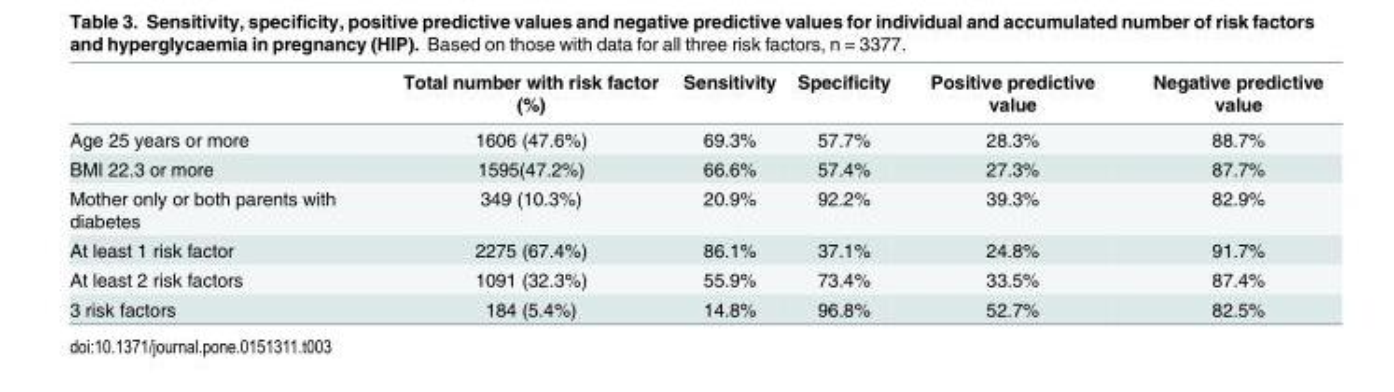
<table><thead><tr><td></td><td>Total number with risk factor (%)</td><td>Sensitivity</td><td>Specificity</td><td>Positive predictive value</td><td>Negative predictive value</td></tr></thead><tbody><tr><td>Age 25 years or more</td><td>1606 (47.6%)</td><td>69.3%</td><td>57.7%</td><td>28.3%</td><td>88.7%</td></tr><tr><td>BMI 22.3 or more</td><td>1595(47.2%)</td><td>66.6%</td><td>57.4%</td><td>27.3%</td><td>87.7%</td></tr><tr><td>Mother only or both parents with diabetes</td><td>349 (10.3%)</td><td>20.9%</td><td>92.2%</td><td>39.3%</td><td>82.9%</td></tr><tr><td>At least 1 risk factor</td><td>2275 (67.4%)</td><td>86.1%</td><td>37.1%</td><td>24.8%</td><td>91.7%</td></tr><tr><td>At least 2 risk factors</td><td>1091 (32.3%)</td><td>55.9%</td><td>73.4%</td><td>33.5%</td><td>87.4%</td></tr><tr><td>3 risk factors</td><td>184 (5.4%)</td><td>14.8%</td><td>96.8%</td><td>52.7%</td><td>82.5%</td></tr></tbody></table>